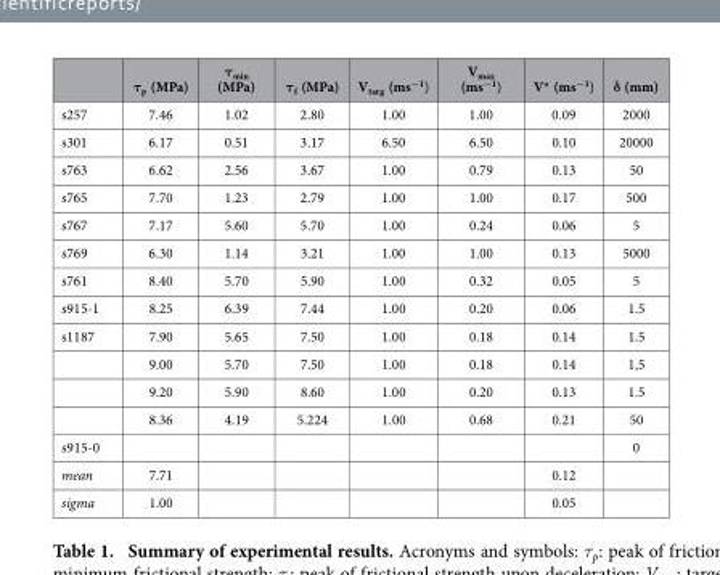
<table><thead><tr><td></td><td>τ<sub>p</sub> (MPa)</td><td>τ<sub>min</sub> (MPa)</td><td>τ<sub>f</sub> (MPa)</td><td>V<sub>targ</sub> (ms<sup>−1</sup>)</td><td>V<sub>max</sub> (ms<sup>−1</sup>)</td><td>V* (ms<sup>−1</sup>)</td><td>δ (mm)</td></tr></thead><tbody><tr><td>s257</td><td>7.46</td><td>1.02</td><td>2.80</td><td>1.00</td><td>1.00</td><td>0.09</td><td>2000</td></tr><tr><td>s301</td><td>6.17</td><td>0.51</td><td>3.17</td><td>6.50</td><td>6.50</td><td>0.10</td><td>20000</td></tr><tr><td>s763</td><td>6.62</td><td>2.56</td><td>3.67</td><td>1.00</td><td>0.79</td><td>0.13</td><td>50</td></tr><tr><td>s765</td><td>7.70</td><td>1.23</td><td>2.79</td><td>1.00</td><td>1.00</td><td>0.17</td><td>500</td></tr><tr><td>s767</td><td>7.17</td><td>5.60</td><td>5.70</td><td>1.00</td><td>0.24</td><td>0.06</td><td>5</td></tr><tr><td>s769</td><td>6.30</td><td>1.14</td><td>3.21</td><td>1.00</td><td>1.00</td><td>0.13</td><td>5000</td></tr><tr><td>s761</td><td>8.40</td><td>5.70</td><td>5.90</td><td>1.00</td><td>0.32</td><td>0.05</td><td>5</td></tr><tr><td>s915-1</td><td>8.25</td><td>6.39</td><td>7.44</td><td>1.00</td><td>0.20</td><td>0.06</td><td>1.5</td></tr><tr><td rowspan="4">s1187</td><td>7.90</td><td>5.65</td><td>7.50</td><td>1.00</td><td>0.18</td><td>0.14</td><td>1.5</td></tr><tr><td>9.00</td><td>5.70</td><td>7.50</td><td>1.00</td><td>0.18</td><td>0.14</td><td>1,5</td></tr><tr><td>9.20</td><td>5.90</td><td>8.60</td><td>1.00</td><td>0.20</td><td>0.13</td><td>1.5</td></tr><tr><td>8.36</td><td>4.19</td><td>5.224</td><td>1.00</td><td>0.68</td><td>0.21</td><td>50</td></tr><tr><td>s915-0</td><td></td><td></td><td></td><td></td><td></td><td></td><td>0</td></tr><tr><td>mean</td><td>7.71</td><td></td><td></td><td></td><td></td><td>0.12</td><td></td></tr><tr><td>sigma</td><td>1.00</td><td></td><td></td><td></td><td></td><td>0.05</td><td></td></tr></tbody></table>